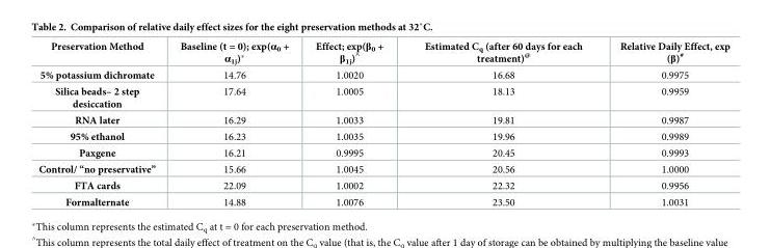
<table><thead><tr><td>Preservation Method</td><td>Baseline (t = 0); exp(α<sub>0</sub> + α<sub>1j</sub>)*</td><td>Effect; exp(β<sub>0</sub> + β<sub>1j</sub>)<sup>^</sup></td><td>Estimated C<sub>q</sub> (after 60 days for each treatment)<sup>@</sup></td><td>Relative Daily Effect, exp (β)<sup>#</sup></td></tr></thead><tbody><tr><td>5% potassium dichromate</td><td>14.76</td><td>1.0020</td><td>16.68</td><td>0.9975</td></tr><tr><td>Silica beads– 2 step desiccation</td><td>17.64</td><td>1.0005</td><td>18.13</td><td>0.9959</td></tr><tr><td>RNA later</td><td>16.29</td><td>1.0033</td><td>19.81</td><td>0.9987</td></tr><tr><td>95% ethanol</td><td>16.23</td><td>1.0035</td><td>19.96</td><td>0.9989</td></tr><tr><td>Paxgene</td><td>16.21</td><td>0.9995</td><td>20.45</td><td>0.9993</td></tr><tr><td>Control/ “no preservative”</td><td>15.66</td><td>1.0045</td><td>20.56</td><td>1.0000</td></tr><tr><td>FTA cards</td><td>22.09</td><td>1.0002</td><td>22.32</td><td>0.9956</td></tr><tr><td>Formalternate</td><td>14.88</td><td>1.0076</td><td>23.50</td><td>1.0031</td></tr></tbody></table>